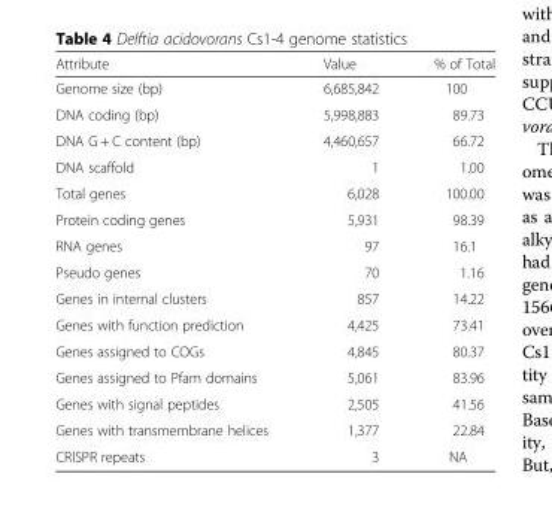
<table><thead><tr><td>Attribute</td><td>Value</td><td>% of Total</td></tr></thead><tbody><tr><td>Genome size (bp)</td><td>6,685,842</td><td>100</td></tr><tr><td>DNA coding (bp)</td><td>5,998,883</td><td>89.73</td></tr><tr><td>DNA G + C content (bp)</td><td>4,460,657</td><td>66.72</td></tr><tr><td>DNA scaffold</td><td>1</td><td>1.00</td></tr><tr><td>Total genes</td><td>6,028</td><td>100.00</td></tr><tr><td>Protein coding genes</td><td>5,931</td><td>98.39</td></tr><tr><td>RNA genes</td><td>97</td><td>16.1</td></tr><tr><td>Pseudo genes</td><td>70</td><td>1.16</td></tr><tr><td>Genes in internal clusters</td><td>857</td><td>14.22</td></tr><tr><td>Genes with function prediction</td><td>4,425</td><td>73.41</td></tr><tr><td>Genes assigned to COGs</td><td>4,845</td><td>80.37</td></tr><tr><td>Genes assigned to Pfam domains</td><td>5,061</td><td>83.96</td></tr><tr><td>Genes with signal peptides</td><td>2,505</td><td>41.56</td></tr><tr><td>Genes with transmembrane helices</td><td>1,377</td><td>22.84</td></tr><tr><td>CRISPR repeats</td><td>3</td><td>NA</td></tr></tbody></table>